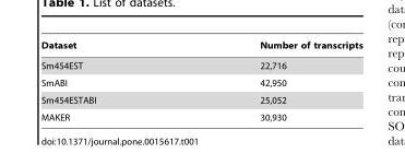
<table><thead><tr><td>Dataset</td><td>Number of transcripts</td></tr></thead><tbody><tr><td>Sm454EST</td><td>22,716</td></tr><tr><td>SmABI</td><td>42,950</td></tr><tr><td>Sm454ESTABI</td><td>25,052</td></tr><tr><td>MAKER</td><td>30,930</td></tr></tbody></table>